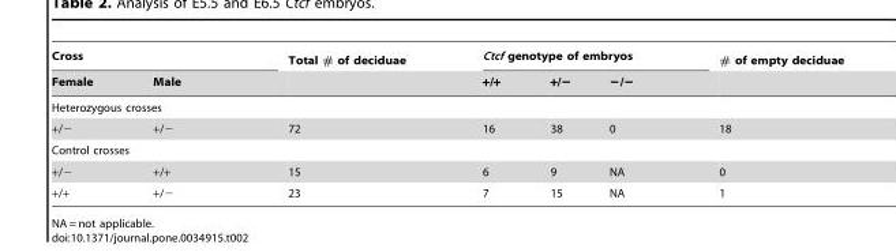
<table><thead><tr><td colspan="2">Cross</td><td rowspan="2">Total # of deciduae</td><td colspan="3">Ctcf genotype of embryos</td><td rowspan="2"># of empty deciduae</td></tr><tr><td>Female</td><td>Male</td><td>+/+</td><td>+/−</td><td>−/−</td></tr></thead><tbody><tr><td colspan="7">Heterozygous crosses</td></tr><tr><td>+/−</td><td>+/−</td><td>72</td><td>16</td><td>38</td><td>0</td><td>18</td></tr><tr><td colspan="7">Control crosses</td></tr><tr><td>+/−</td><td>+/+</td><td>15</td><td>6</td><td>9</td><td>NA</td><td>0</td></tr><tr><td>+/+</td><td>+/−</td><td>23</td><td>7</td><td>15</td><td>NA</td><td>1</td></tr></tbody></table>